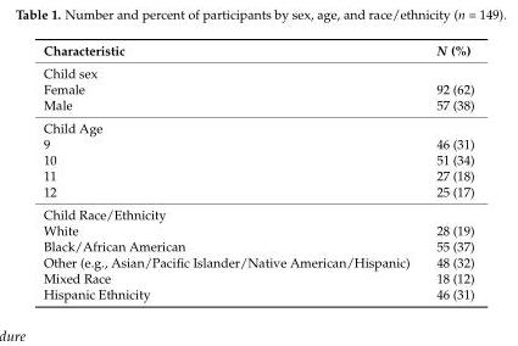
<table><thead><tr><td>Characteristic</td><td>N (%)</td></tr></thead><tbody><tr><td colspan="2">Child sex</td></tr><tr><td>Female</td><td>92 (62)</td></tr><tr><td>Male</td><td>57 (38)</td></tr><tr><td colspan="2">Child Age</td></tr><tr><td>9</td><td>46 (31)</td></tr><tr><td>10</td><td>51 (34)</td></tr><tr><td>11</td><td>27 (18)</td></tr><tr><td>12</td><td>25 (17)</td></tr><tr><td colspan="2">Child Race/Ethnicity</td></tr><tr><td>White</td><td>28 (19)</td></tr><tr><td>Black/African American</td><td>55 (37)</td></tr><tr><td>Other (e.g., Asian/Pacific Islander/Native American/Hispanic)</td><td>48 (32)</td></tr><tr><td>Mixed Race</td><td>18 (12)</td></tr><tr><td>Hispanic Ethnicity</td><td>46 (31)</td></tr></tbody></table>